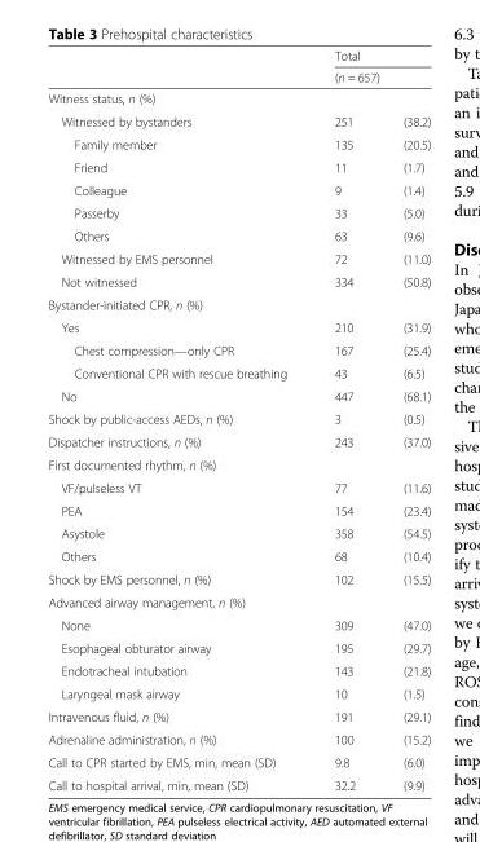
<table><thead><tr><td rowspan="3">Witness status, n (%)</td><td rowspan="2" colspan="2">Total (n = 657)</td></tr><tr></tr><tr><td></td><td></td></tr></thead><tbody><tr><td>Witnessed by bystanders</td><td>251</td><td>(38.2)</td></tr><tr><td>Family member</td><td>135</td><td>(20.5)</td></tr><tr><td>Friend</td><td>11</td><td>(1.7)</td></tr><tr><td>Colleague</td><td>9</td><td>(1.4)</td></tr><tr><td>Passerby</td><td>33</td><td>(5.0)</td></tr><tr><td>Others</td><td>63</td><td>(9.6)</td></tr><tr><td>Witnessed by EMS personnel</td><td>72</td><td>(11.0)</td></tr><tr><td>Not witnessed</td><td>334</td><td>(50.8)</td></tr><tr><td colspan="3">Bystander-initiated CPR, n (%)</td></tr><tr><td>Yes</td><td>210</td><td>(31.9)</td></tr><tr><td>Chest compression—only CPR</td><td>167</td><td>(25.4)</td></tr><tr><td>Conventional CPR with rescue breathing</td><td>43</td><td>(6.5)</td></tr><tr><td>No</td><td>447</td><td>(68.1)</td></tr><tr><td>Shock by public-access AEDs, n (%)</td><td>3</td><td>(0.5)</td></tr><tr><td>Dispatcher instructions, n (%)</td><td>243</td><td>(37.0)</td></tr><tr><td colspan="3">First documented rhythm, n (%)</td></tr><tr><td>VF/pulseless VT</td><td>77</td><td>(11.6)</td></tr><tr><td>PEA</td><td>154</td><td>(23.4)</td></tr><tr><td>Asystole</td><td>358</td><td>(54.5)</td></tr><tr><td>Others</td><td>68</td><td>(10.4)</td></tr><tr><td>Shock by EMS personnel, n (%)</td><td>102</td><td>(15.5)</td></tr><tr><td colspan="3">Advanced airway management, n (%)</td></tr><tr><td>None</td><td>309</td><td>(47.0)</td></tr><tr><td>Esophageal obturator airway</td><td>195</td><td>(29.7)</td></tr><tr><td>Endotracheal intubation</td><td>143</td><td>(21.8)</td></tr><tr><td>Laryngeal mask airway</td><td>10</td><td>(1.5)</td></tr><tr><td>Intravenous fluid, n (%)</td><td>191</td><td>(29.1)</td></tr><tr><td>Adrenaline administration, n (%)</td><td>100</td><td>(15.2)</td></tr><tr><td>Call to CPR started by EMS, min, mean (SD)</td><td>9.8</td><td>(6.0)</td></tr><tr><td>Call to hospital arrival, min, mean (SD)</td><td>32.2</td><td>(9.9)</td></tr></tbody></table>